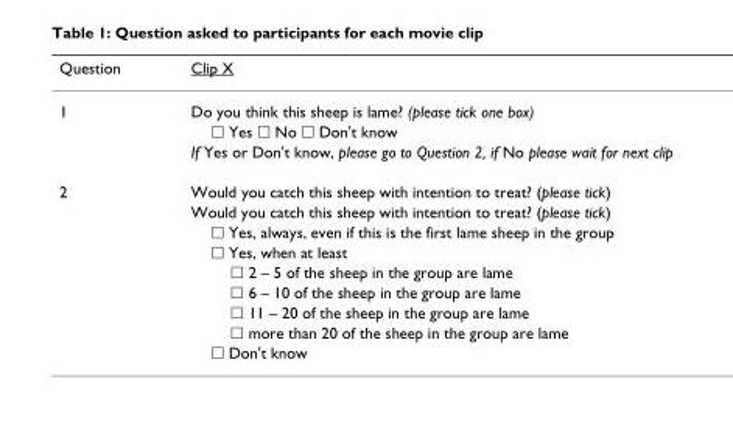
<table><thead><tr><td>Question</td><td>Clip X</td></tr></thead><tbody><tr><td rowspan="3">1</td><td>Do you think this sheep is lame? (please tick one box)</td></tr><tr><td>□ Yes □ No □ Don&#x27;t know</td></tr><tr><td>If Yes or Don&#x27;t know, please go to Question 2, if No please wait for next clip</td></tr><tr><td rowspan="9">2</td><td>Would you catch this sheep with intention to treat? (please tick)</td></tr><tr><td>Would you catch this sheep with intention to treat? (please tick)</td></tr><tr><td>□ Yes, always, even if this is the first lame sheep in the group</td></tr><tr><td>□ Yes, when at least</td></tr><tr><td>□ 2 – 5 of the sheep in the group are lame</td></tr><tr><td>□ 6 – 10 of the sheep in the group are lame</td></tr><tr><td>□ 11 – 20 of the sheep in the group are lame</td></tr><tr><td>□ more than 20 of the sheep in the group are lame</td></tr><tr><td>□ Don&#x27;t know</td></tr></tbody></table>